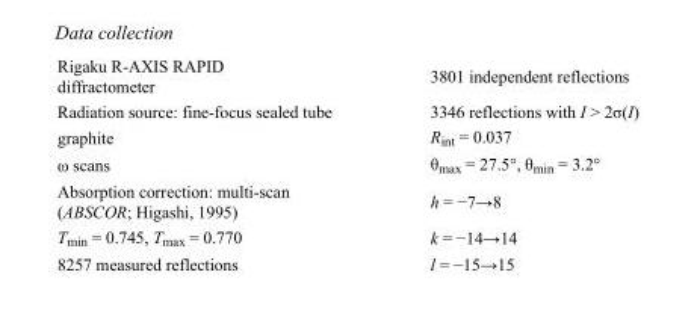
<table><tbody><tr><td>Rigaku R-AXIS RAPID diffractometer</td><td>3801 independent reflections</td></tr><tr><td>Radiation source: fine-focus sealed tube</td><td>3346 reflections with I &gt; 2σ(I)</td></tr><tr><td>graphite</td><td>R<sub>int</sub> = 0.037</td></tr><tr><td>ω scans</td><td>θ<sub>max</sub> = 27.5°, θ<sub>min</sub> = 3.2°</td></tr><tr><td>Absorption correction: multi-scan (ABSCOR; Higashi, 1995)</td><td>h = −7→8</td></tr><tr><td>T<sub>min</sub> = 0.745, T<sub>max</sub> = 0.770</td><td>k = −14→14</td></tr><tr><td>8257 measured reflections</td><td>l = −15→15</td></tr></tbody></table>